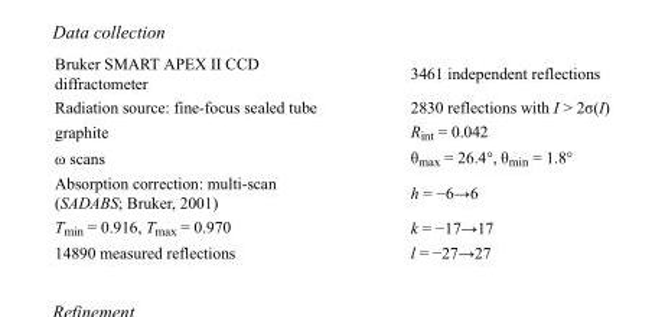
<table><tbody><tr><td>Bruker SMART APEX II CCD diffractometer</td><td>3461 independent reflections</td></tr><tr><td>Radiation source: fine-focus sealed tube</td><td>2830 reflections with I &gt; 2σ(I)</td></tr><tr><td>graphite</td><td>R<sub>int</sub> = 0.042</td></tr><tr><td>ω scans</td><td>θ<sub>max</sub> = 26.4°, θ<sub>min</sub> = 1.8°</td></tr><tr><td>Absorption correction: multi-scan (SADABS; Bruker, 2001)</td><td>h = −6→6</td></tr><tr><td>T<sub>min</sub> = 0.916, T<sub>max</sub> = 0.970</td><td>k = −17→17</td></tr><tr><td>14890 measured reflections</td><td>l = −27→27</td></tr></tbody></table>